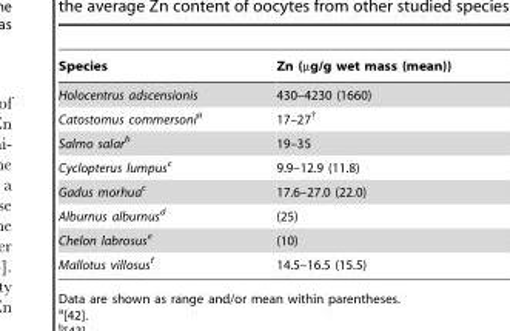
<table><thead><tr><td>Species</td><td>Zn (µg/g wet mass (mean))</td></tr></thead><tbody><tr><td>Holocentrus adscensionis</td><td>430–4230 (1660)</td></tr><tr><td>Catostomus commersonia</td><td>17–27†</td></tr><tr><td>Salmo salarb</td><td>19–35</td></tr><tr><td>Cyclopterus lumpusc</td><td>9.9–12.9 (11.8)</td></tr><tr><td>Gadus morhuac</td><td>17.6–27.0 (22.0)</td></tr><tr><td>Alburnus alburnusd</td><td>(25)</td></tr><tr><td>Chelon labrosuse</td><td>(10)</td></tr><tr><td>Mallotus villosusf</td><td>14.5–16.5 (15.5)</td></tr></tbody></table>